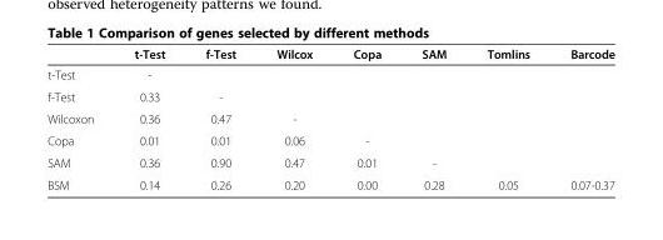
<table><thead><tr><td></td><td>t-Test</td><td>f-Test</td><td>Wilcox</td><td>Copa</td><td>SAM</td><td>Tomlins</td><td>Barcode</td></tr></thead><tbody><tr><td>t-Test</td><td>-</td><td></td><td></td><td></td><td></td><td></td><td></td></tr><tr><td>f-Test</td><td>0.33</td><td>-</td><td></td><td></td><td></td><td></td><td></td></tr><tr><td>Wilcoxon</td><td>0.36</td><td>0.47</td><td>-</td><td></td><td></td><td></td><td></td></tr><tr><td>Copa</td><td>0.01</td><td>0.01</td><td>0.06</td><td>-</td><td></td><td></td><td></td></tr><tr><td>SAM</td><td>0.36</td><td>0.90</td><td>0.47</td><td>0.01</td><td>-</td><td></td><td></td></tr><tr><td>BSM</td><td>0.14</td><td>0.26</td><td>0.20</td><td>0.00</td><td>0.28</td><td>0.05</td><td>0.07-0.37</td></tr></tbody></table>